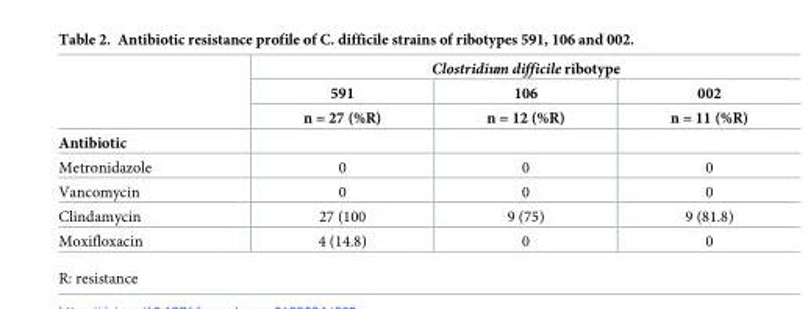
<table><thead><tr><td rowspan="3"></td><td colspan="3">Clostridium difficile ribotype</td></tr><tr><td rowspan="2">591 n = 27 (%R)</td><td rowspan="2">106 n = 12 (%R)</td><td rowspan="2">002 n = 11 (%R)</td></tr><tr></tr></thead><tbody><tr><td colspan="4">Antibiotic</td></tr><tr><td>Metronidazole</td><td>0</td><td>0</td><td>0</td></tr><tr><td>Vancomycin</td><td>0</td><td>0</td><td>0</td></tr><tr><td>Clindamycin</td><td>27 (100</td><td>9 (75)</td><td>9 (81.8)</td></tr><tr><td>Moxifloxacin</td><td>4 (14.8)</td><td>0</td><td>0</td></tr></tbody></table>